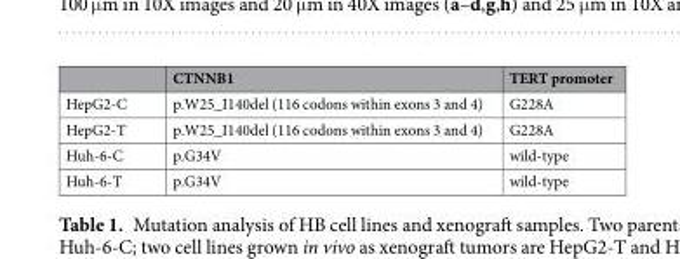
<table><thead><tr><td></td><td>CTNNB1</td><td>TERT promoter</td></tr></thead><tbody><tr><td>HepG2-C</td><td>p.W25_I140del (116 codons within exons 3 and 4)</td><td>G228A</td></tr><tr><td>HepG2-T</td><td>p.W25_I140del (116 codons within exons 3 and 4)</td><td>G228A</td></tr><tr><td>Huh-6-C</td><td>p.G34V</td><td>wild-type</td></tr><tr><td>Huh-6-T</td><td>p.G34V</td><td>wild-type</td></tr></tbody></table>